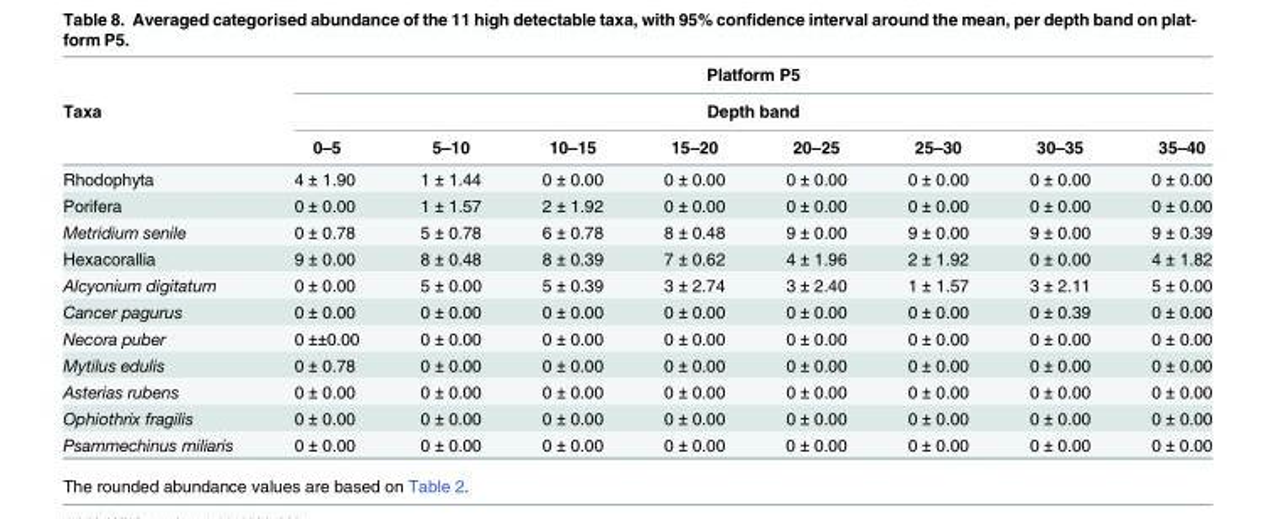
<table><thead><tr><td rowspan="3">Taxa</td><td rowspan="2" colspan="8">Platform P5 Depth band</td></tr><tr></tr><tr><td>0–5</td><td>5–10</td><td>10–15</td><td>15–20</td><td>20–25</td><td>25–30</td><td>30–35</td><td>35–40</td></tr></thead><tbody><tr><td>Rhodophyta</td><td>4 ± 1.90</td><td>1 ± 1.44</td><td>0 ± 0.00</td><td>0 ± 0.00</td><td>0 ± 0.00</td><td>0 ± 0.00</td><td>0 ± 0.00</td><td>0 ± 0.00</td></tr><tr><td>Porifera</td><td>0 ± 0.00</td><td>1 ± 1.57</td><td>2 ± 1.92</td><td>0 ± 0.00</td><td>0 ± 0.00</td><td>0 ± 0.00</td><td>0 ± 0.00</td><td>0 ± 0.00</td></tr><tr><td>Metridium senile</td><td>0 ± 0.78</td><td>5 ± 0.78</td><td>6 ± 0.78</td><td>8 ± 0.48</td><td>9 ± 0.00</td><td>9 ± 0.00</td><td>9 ± 0.00</td><td>9 ± 0.39</td></tr><tr><td>Hexacorallia</td><td>9 ± 0.00</td><td>8 ± 0.48</td><td>8 ± 0.39</td><td>7 ± 0.62</td><td>4 ± 1.96</td><td>2 ± 1.92</td><td>0 ± 0.00</td><td>4 ± 1.82</td></tr><tr><td>Alcyonium digitatum</td><td>0 ± 0.00</td><td>5 ± 0.00</td><td>5 ± 0.39</td><td>3 ± 2.74</td><td>3 ± 2.40</td><td>1 ± 1.57</td><td>3 ± 2.11</td><td>5 ± 0.00</td></tr><tr><td>Cancer pagurus</td><td>0 ± 0.00</td><td>0 ± 0.00</td><td>0 ± 0.00</td><td>0 ± 0.00</td><td>0 ± 0.00</td><td>0 ± 0.00</td><td>0 ± 0.39</td><td>0 ± 0.00</td></tr><tr><td>Necora puber</td><td>0 ±±0.00</td><td>0 ± 0.00</td><td>0 ± 0.00</td><td>0 ± 0.00</td><td>0 ± 0.00</td><td>0 ± 0.00</td><td>0 ± 0.00</td><td>0 ± 0.00</td></tr><tr><td>Mytilus edulis</td><td>0 ± 0.78</td><td>0 ± 0.00</td><td>0 ± 0.00</td><td>0 ± 0.00</td><td>0 ± 0.00</td><td>0 ± 0.00</td><td>0 ± 0.00</td><td>0 ± 0.00</td></tr><tr><td>Asterias rubens</td><td>0 ± 0.00</td><td>0 ± 0.00</td><td>0 ± 0.00</td><td>0 ± 0.00</td><td>0 ± 0.00</td><td>0 ± 0.00</td><td>0 ± 0.00</td><td>0 ± 0.00</td></tr><tr><td>Ophiothrix fragilis</td><td>0 ± 0.00</td><td>0 ± 0.00</td><td>0 ± 0.00</td><td>0 ± 0.00</td><td>0 ± 0.00</td><td>0 ± 0.00</td><td>0 ± 0.00</td><td>0 ± 0.00</td></tr><tr><td>Psammechinus miliaris</td><td>0 ± 0.00</td><td>0 ± 0.00</td><td>0 ± 0.00</td><td>0 ± 0.00</td><td>0 ± 0.00</td><td>0 ± 0.00</td><td>0 ± 0.00</td><td>0 ± 0.00</td></tr></tbody></table>